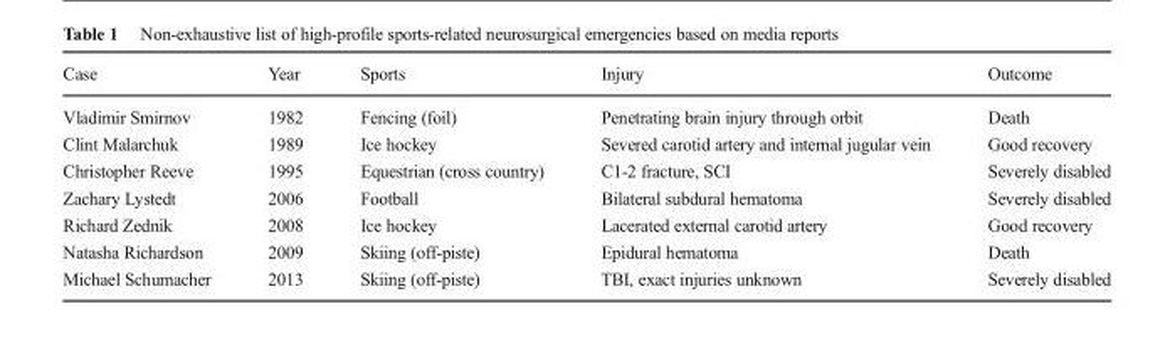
<table><thead><tr><td>Case</td><td>Year</td><td>Sports</td><td>Injury</td><td>Outcome</td></tr></thead><tbody><tr><td>Vladimir Smirnov</td><td>1982</td><td>Fencing (foil)</td><td>Penetrating brain injury through orbit</td><td>Death</td></tr><tr><td>Clint Malarchuk</td><td>1989</td><td>Ice hockey</td><td>Severed carotid artery and internal jugular vein</td><td>Good recovery</td></tr><tr><td>Christopher Reeve</td><td>1995</td><td>Equestrian (cross country)</td><td>C1-2 fracture, SCI</td><td>Severely disabled</td></tr><tr><td>Zachary Lystedt</td><td>2006</td><td>Football</td><td>Bilateral subdural hematoma</td><td>Severely disabled</td></tr><tr><td>Richard Zednik</td><td>2008</td><td>Ice hockey</td><td>Lacerated external carotid artery</td><td>Good recovery</td></tr><tr><td>Natasha Richardson</td><td>2009</td><td>Skiing (off-piste)</td><td>Epidural hematoma</td><td>Death</td></tr><tr><td>Michael Schumacher</td><td>2013</td><td>Skiing (off-piste)</td><td>TBI, exact injuries unknown</td><td>Severely disabled</td></tr></tbody></table>